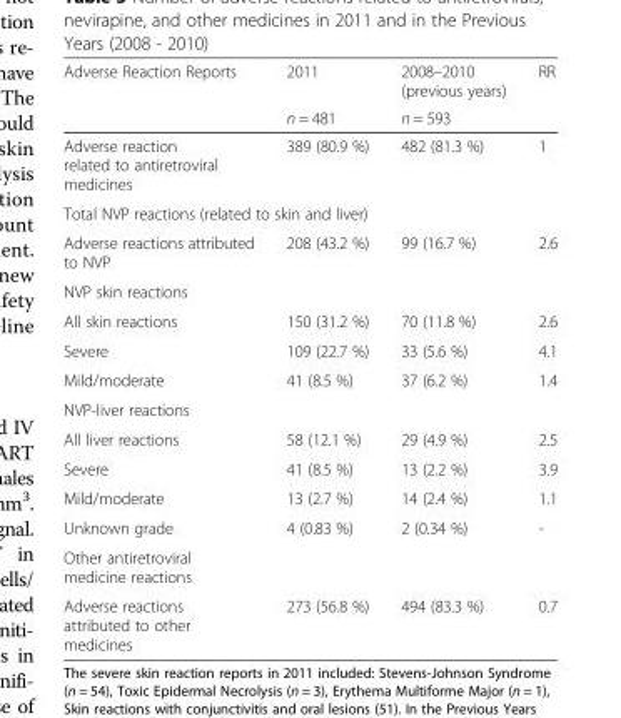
<table><thead><tr><td rowspan="2">Adverse Reaction Reports</td><td rowspan="2">2011 n = 481</td><td rowspan="2">2008–2010 (previous years) n = 593</td><td rowspan="2">RR</td></tr><tr></tr></thead><tbody><tr><td>Adverse reaction related to antiretroviral medicines</td><td>389 (80.9 %)</td><td>482 (81.3 %)</td><td>1</td></tr><tr><td colspan="4">Total NVP reactions (related to skin and liver)</td></tr><tr><td>Adverse reactions attributed to NVP</td><td>208 (43.2 %)</td><td>99 (16.7 %)</td><td>2.6</td></tr><tr><td colspan="4">NVP skin reactions</td></tr><tr><td>All skin reactions</td><td>150 (31.2 %)</td><td>70 (11.8 %)</td><td>2.6</td></tr><tr><td>Severe</td><td>109 (22.7 %)</td><td>33 (5.6 %)</td><td>4.1</td></tr><tr><td>Mild/moderate</td><td>41 (8.5 %)</td><td>37 (6.2 %)</td><td>1.4</td></tr><tr><td colspan="4">NVP-liver reactions</td></tr><tr><td>All liver reactions</td><td>58 (12.1 %)</td><td>29 (4.9 %)</td><td>2.5</td></tr><tr><td>Severe</td><td>41 (8.5 %)</td><td>13 (2.2 %)</td><td>3.9</td></tr><tr><td>Mild/moderate</td><td>13 (2.7 %)</td><td>14 (2.4 %)</td><td>1.1</td></tr><tr><td>Unknown grade</td><td>4 (0.83 %)</td><td>2 (0.34 %)</td><td>-</td></tr><tr><td colspan="4">Other antiretroviral medicine reactions</td></tr><tr><td>Adverse reactions attributed to other medicines</td><td>273 (56.8 %)</td><td>494 (83.3 %)</td><td>0.7</td></tr></tbody></table>